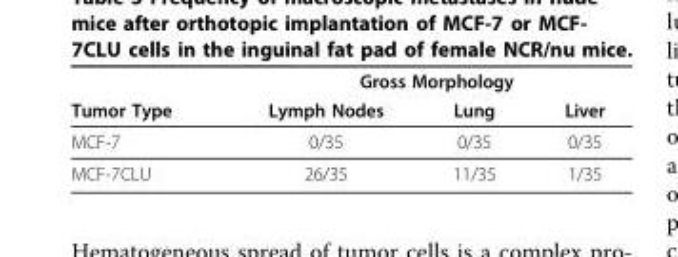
<table><thead><tr><td rowspan="2">Tumor Type</td><td colspan="3">Gross Morphology</td></tr><tr><td>Lymph Nodes</td><td>Lung</td><td>Liver</td></tr></thead><tbody><tr><td>MCF-7</td><td>0/35</td><td>0/35</td><td>0/35</td></tr><tr><td>MCF-7CLU</td><td>26/35</td><td>11/35</td><td>1/35</td></tr></tbody></table>